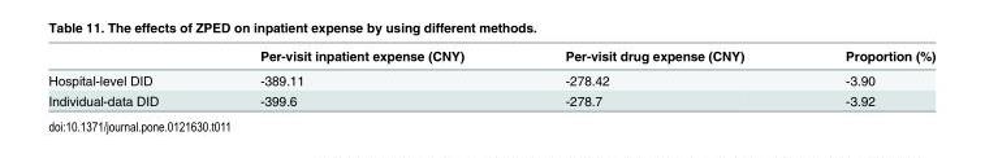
<table><thead><tr><td></td><td>Per-visit inpatient expense (CNY)</td><td>Per-visit drug expense (CNY)</td><td>Proportion (%)</td></tr></thead><tbody><tr><td>Hospital-level DID</td><td>-389.11</td><td>-278.42</td><td>-3.90</td></tr><tr><td>Individual-data DID</td><td>-399.6</td><td>-278.7</td><td>-3.92</td></tr></tbody></table>